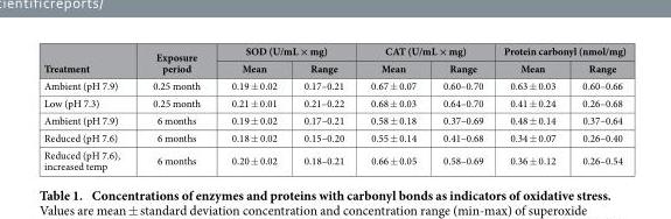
<table><thead><tr><td rowspan="2">Treatment</td><td rowspan="2">Exposure period</td><td colspan="2">SOD (U/mL × mg)</td><td colspan="2">CAT (U/mL × mg)</td><td colspan="2">Protein carbonyl (nmol/mg)</td></tr><tr><td>Mean</td><td>Range</td><td>Mean</td><td>Range</td><td>Mean</td><td>Range</td></tr></thead><tbody><tr><td>Ambient (pH 7.9)</td><td>0.25 month</td><td>0.19 ± 0.02</td><td>0.17–0.21</td><td>0.67 ± 0.07</td><td>0.60–0.70</td><td>0.63 ± 0.03</td><td>0.60–0.66</td></tr><tr><td>Low (pH 7.3)</td><td>0.25 month</td><td>0.21 ± 0.01</td><td>0.21–0.22</td><td>0.68 ± 0.03</td><td>0.64–0.70</td><td>0.41 ± 0.24</td><td>0.26–0.68</td></tr><tr><td>Ambient (pH 7.9)</td><td>6 months</td><td>0.19 ± 0.02</td><td>0.17–0.21</td><td>0.58 ± 0.18</td><td>0.37–0.69</td><td>0.48 ± 0.14</td><td>0.37–0.64</td></tr><tr><td>Reduced (pH 7.6)</td><td>6 months</td><td>0.18 ± 0.02</td><td>0.15–0.20</td><td>0.55 ± 0.14</td><td>0.41–0.68</td><td>0.34 ± 0.07</td><td>0.26–0.40</td></tr><tr><td>Reduced (pH 7.6), increased temp</td><td>6 months</td><td>0.20 ± 0.02</td><td>0.18–0.21</td><td>0.66 ± 0.05</td><td>0.58–0.69</td><td>0.36 ± 0.12</td><td>0.26–0.54</td></tr></tbody></table>